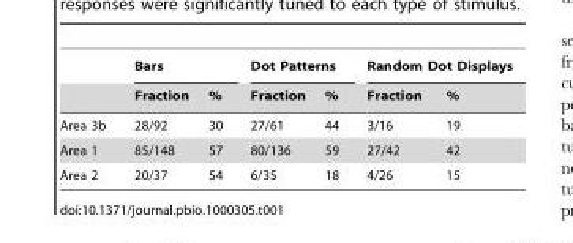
<table><thead><tr><td rowspan="2"></td><td colspan="2">Bars</td><td colspan="2">Dot Patterns</td><td colspan="2">Random Dot Displays</td></tr><tr><td>Fraction</td><td>%</td><td>Fraction</td><td>%</td><td>Fraction</td><td>%</td></tr></thead><tbody><tr><td>Area 3b</td><td>28/92</td><td>30</td><td>27/61</td><td>44</td><td>3/16</td><td>19</td></tr><tr><td>Area 1</td><td>85/148</td><td>57</td><td>80/136</td><td>59</td><td>27/42</td><td>42</td></tr><tr><td>Area 2</td><td>20/37</td><td>54</td><td>6/35</td><td>18</td><td>4/26</td><td>15</td></tr></tbody></table>